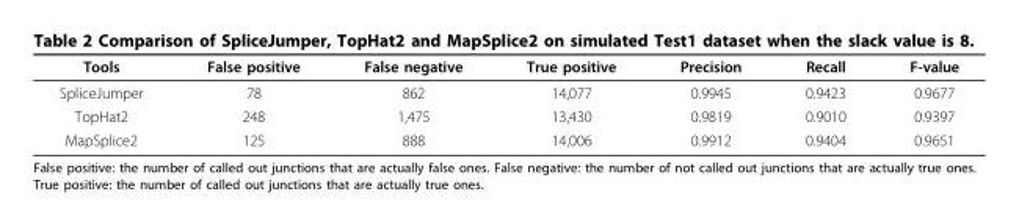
<table><thead><tr><td>Tools</td><td>False positive</td><td>False negative</td><td>True positive</td><td>Precision</td><td>Recall</td><td>F-value</td></tr></thead><tbody><tr><td>SpliceJumper</td><td>78</td><td>862</td><td>14,077</td><td>0.9945</td><td>0.9423</td><td>0.9677</td></tr><tr><td>TopHat2</td><td>248</td><td>1,475</td><td>13,430</td><td>0.9819</td><td>0.9010</td><td>0.9397</td></tr><tr><td>MapSplice2</td><td>125</td><td>888</td><td>14,006</td><td>0.9912</td><td>0.9404</td><td>0.9651</td></tr></tbody></table>